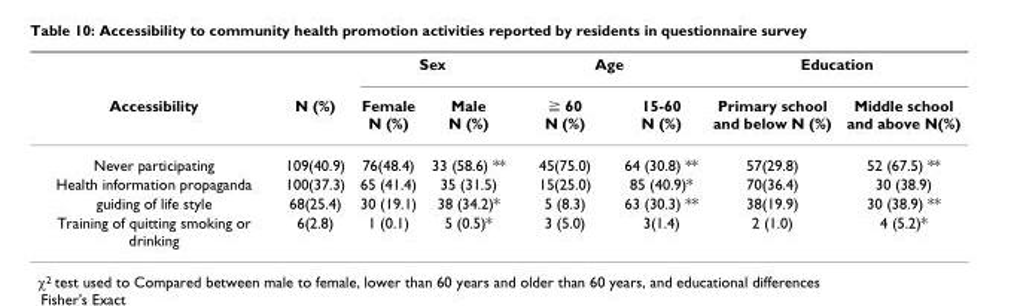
<table><thead><tr><td rowspan="2">Accessibility</td><td rowspan="2">N (%)</td><td colspan="2">Sex</td><td colspan="2">Age</td><td colspan="2">Education</td></tr><tr><td>Female N (%)</td><td>Male N (%)</td><td>≧ 60 N (%)</td><td>15-60 N (%)</td><td>Primary school and below N (%)</td><td>Middle school and above N(%)</td></tr></thead><tbody><tr><td>Never participating</td><td>109(40.9)</td><td>76(48.4)</td><td>33 (58.6) **</td><td>45(75.0)</td><td>64 (30.8) **</td><td>57(29.8)</td><td>52 (67.5) **</td></tr><tr><td>Health information propaganda</td><td>100(37.3)</td><td>65 (41.4)</td><td>35 (31.5)</td><td>15(25.0)</td><td>85 (40.9)*</td><td>70(36.4)</td><td>30 (38.9)</td></tr><tr><td>guiding of life style</td><td>68(25.4)</td><td>30 (19.1)</td><td>38 (34.2)*</td><td>5 (8.3)</td><td>63 (30.3) **</td><td>38(19.9)</td><td>30 (38.9) **</td></tr><tr><td>Training of quitting smoking or drinking</td><td>6(2.8)</td><td>1 (0.1)</td><td>5 (0.5)*</td><td>3 (5.0)</td><td>3(1.4)</td><td>2 (1.0)</td><td>4 (5.2)*</td></tr></tbody></table>